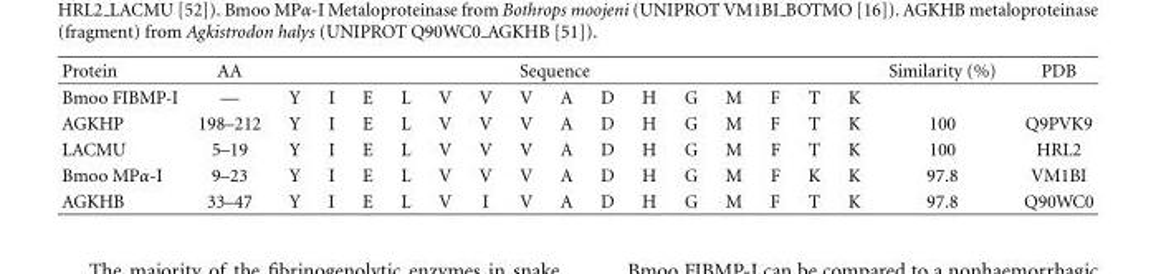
<table><thead><tr><td rowspan="2">Protein Bmoo FIBMP-I</td><td rowspan="2">AA —</td><td colspan="14">Sequence</td><td rowspan="2">K</td><td rowspan="2">Similarity (%)</td><td rowspan="2">PDB</td></tr><tr><td>Y</td><td>I</td><td>E</td><td>L</td><td>V</td><td>V</td><td>V</td><td>A</td><td>D</td><td>H</td><td>G</td><td>M</td><td>F</td><td>T</td></tr></thead><tbody><tr><td>AGKHP</td><td>198–212</td><td>Y</td><td>I</td><td>E</td><td>L</td><td>V</td><td>V</td><td>V</td><td>A</td><td>D</td><td>H</td><td>G</td><td>M</td><td>F</td><td>T</td><td>K</td><td>100</td><td>Q9PVK9</td></tr><tr><td>LACMU</td><td>5–19</td><td>Y</td><td>I</td><td>E</td><td>L</td><td>V</td><td>V</td><td>V</td><td>A</td><td>D</td><td>H</td><td>G</td><td>M</td><td>F</td><td>T</td><td>K</td><td>100</td><td>HRL2</td></tr><tr><td>Bmoo MPα-I</td><td>9–23</td><td>Y</td><td>I</td><td>E</td><td>L</td><td>V</td><td>V</td><td>V</td><td>A</td><td>D</td><td>H</td><td>G</td><td>M</td><td>F</td><td>K</td><td>K</td><td>97.8</td><td>VM1BI</td></tr><tr><td>AGKHB</td><td>33–47</td><td>Y</td><td>I</td><td>E</td><td>L</td><td>V</td><td>I</td><td>V</td><td>A</td><td>D</td><td>H</td><td>G</td><td>M</td><td>F</td><td>T</td><td>K</td><td>97.8</td><td>Q90WC0</td></tr></tbody></table>